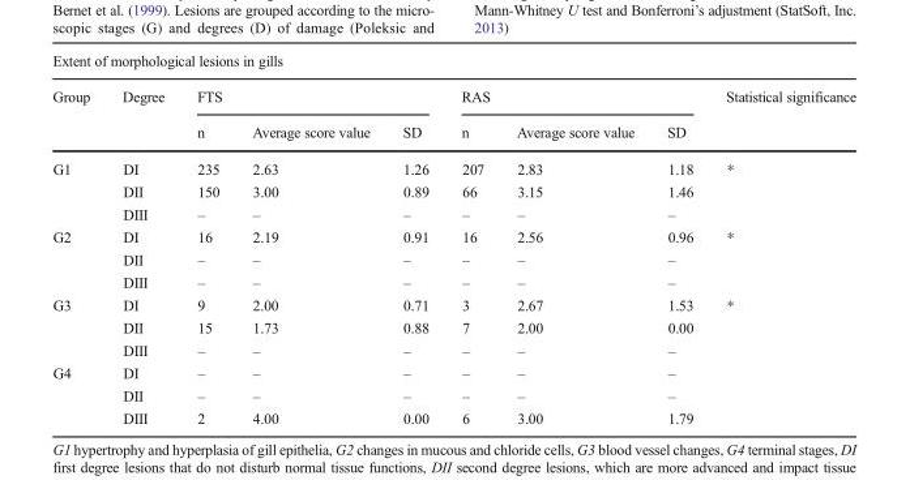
<table><thead><tr><td colspan="9">Extent of morphological lesions in gills</td></tr><tr><td rowspan="2">Group</td><td rowspan="2">Degree</td><td colspan="3">FTS</td><td colspan="3">RAS</td><td rowspan="2">Statistical significance</td></tr><tr><td>n</td><td>Average score value</td><td>SD</td><td>n</td><td>Average score value</td><td>SD</td></tr></thead><tbody><tr><td rowspan="3">G1</td><td>DI</td><td>235</td><td>2.63</td><td>1.26</td><td>207</td><td>2.83</td><td>1.18</td><td>*</td></tr><tr><td>DII</td><td>150</td><td>3.00</td><td>0.89</td><td>66</td><td>3.15</td><td>1.46</td><td></td></tr><tr><td>DIII</td><td>–</td><td>–</td><td>–</td><td>–</td><td>–</td><td>–</td><td></td></tr><tr><td rowspan="3">G2</td><td>DI</td><td>16</td><td>2.19</td><td>0.91</td><td>16</td><td>2.56</td><td>0.96</td><td>*</td></tr><tr><td>DII</td><td>–</td><td>–</td><td>–</td><td>–</td><td>–</td><td>–</td><td></td></tr><tr><td>DIII</td><td>–</td><td>–</td><td>–</td><td>–</td><td>–</td><td>–</td><td></td></tr><tr><td rowspan="3">G3</td><td>DI</td><td>9</td><td>2.00</td><td>0.71</td><td>3</td><td>2.67</td><td>1.53</td><td>*</td></tr><tr><td>DII</td><td>15</td><td>1.73</td><td>0.88</td><td>7</td><td>2.00</td><td>0.00</td><td></td></tr><tr><td>DIII</td><td>–</td><td>–</td><td>–</td><td>–</td><td>–</td><td>–</td><td></td></tr><tr><td rowspan="3">G4</td><td>DI</td><td>–</td><td>–</td><td>–</td><td>–</td><td>–</td><td>–</td><td></td></tr><tr><td>DII</td><td>–</td><td>–</td><td>–</td><td>–</td><td>–</td><td>–</td><td></td></tr><tr><td>DIII</td><td>2</td><td>4.00</td><td>0.00</td><td>6</td><td>3.00</td><td>1.79</td><td></td></tr></tbody></table>